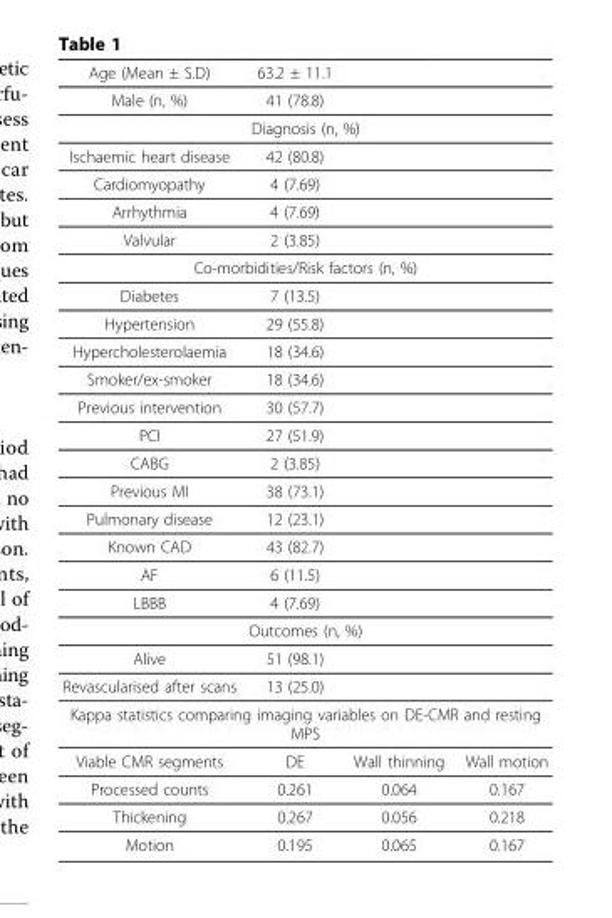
<table><tbody><tr><td>Age (Mean ± S.D)</td><td>63.2 ± 11.1</td><td></td><td></td></tr><tr><td>Male (n, %)</td><td>41 (78.8)</td><td></td><td></td></tr><tr><td colspan="4">Diagnosis (n, %)</td></tr><tr><td>Ischaemic heart disease</td><td>42 (80.8)</td><td></td><td></td></tr><tr><td>Cardiomyopathy</td><td>4 (7.69)</td><td></td><td></td></tr><tr><td>Arrhythmia</td><td>4 (7.69)</td><td></td><td></td></tr><tr><td>Valvular</td><td>2 (3.85)</td><td></td><td></td></tr><tr><td colspan="4">Co-morbidities/Risk factors (n, %)</td></tr><tr><td>Diabetes</td><td>7 (13.5)</td><td></td><td></td></tr><tr><td>Hypertension</td><td>29 (55.8)</td><td></td><td></td></tr><tr><td>Hypercholesterolaemia</td><td>18 (34.6)</td><td></td><td></td></tr><tr><td>Smoker/ex-smoker</td><td>18 (34.6)</td><td></td><td></td></tr><tr><td>Previous intervention</td><td>30 (57.7)</td><td></td><td></td></tr><tr><td>PCI</td><td>27 (51.9)</td><td></td><td></td></tr><tr><td>CABG</td><td>2 (3.85)</td><td></td><td></td></tr><tr><td>Previous MI</td><td>38 (73.1)</td><td></td><td></td></tr><tr><td>Pulmonary disease</td><td>12 (23.1)</td><td></td><td></td></tr><tr><td>Known CAD</td><td>43 (82.7)</td><td></td><td></td></tr><tr><td>AF</td><td>6 (11.5)</td><td></td><td></td></tr><tr><td>LBBB</td><td>4 (7.69)</td><td></td><td></td></tr><tr><td colspan="4">Outcomes (n, %)</td></tr><tr><td>Alive</td><td>51 (98.1)</td><td></td><td></td></tr><tr><td>Revascularised after scans</td><td>13 (25.0)</td><td></td><td></td></tr><tr><td colspan="4">Kappa statistics comparing imaging variables on DE-CMR and resting MPS</td></tr><tr><td>Viable CMR segments</td><td>DE</td><td>Wall thinning</td><td>Wall motion</td></tr><tr><td>Processed counts</td><td>0.261</td><td>0.064</td><td>0.167</td></tr><tr><td>Thickening</td><td>0.267</td><td>0.056</td><td>0.218</td></tr><tr><td>Motion</td><td>0.195</td><td>0.065</td><td>0.167</td></tr></tbody></table>